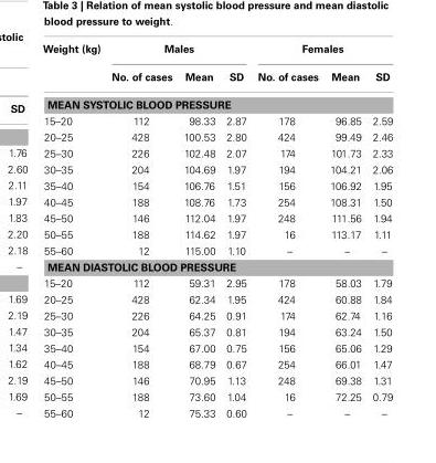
<table><thead><tr><td rowspan="2">Weight (kg)</td><td colspan="3">Males</td><td colspan="3">Females</td></tr><tr><td>No. of cases</td><td>Mean</td><td>SD</td><td>No. of cases</td><td>Mean</td><td>SD</td></tr></thead><tbody><tr><td colspan="7">MEAN SYSTOLIC BLOOD PRESSURE</td></tr><tr><td>15–20</td><td>112</td><td>98.33</td><td>2.87</td><td>178</td><td>96.85</td><td>2.59</td></tr><tr><td>20–25</td><td>428</td><td>100.53</td><td>2.80</td><td>424</td><td>99.49</td><td>2.46</td></tr><tr><td>25–30</td><td>226</td><td>102.48</td><td>2.07</td><td>174</td><td>101.73</td><td>2.33</td></tr><tr><td>30–35</td><td>204</td><td>104.69</td><td>1.97</td><td>194</td><td>104.21</td><td>2.06</td></tr><tr><td>35–40</td><td>154</td><td>106.76</td><td>1.51</td><td>156</td><td>106.92</td><td>1.95</td></tr><tr><td>40–45</td><td>188</td><td>108.76</td><td>1.73</td><td>254</td><td>108.31</td><td>1.50</td></tr><tr><td>45–50</td><td>146</td><td>112.04</td><td>1.97</td><td>248</td><td>111.56</td><td>1.94</td></tr><tr><td>50–55</td><td>188</td><td>114.62</td><td>1.97</td><td>16</td><td>113.17</td><td>1.11</td></tr><tr><td>55–60</td><td>12</td><td>115.00</td><td>1.10</td><td>–</td><td>–</td><td>–</td></tr><tr><td colspan="7">MEAN DIASTOLIC BLOOD PRESSURE</td></tr><tr><td>15–20</td><td>112</td><td>59.31</td><td>2.95</td><td>178</td><td>58.03</td><td>1.79</td></tr><tr><td>20–25</td><td>428</td><td>62.34</td><td>1.95</td><td>424</td><td>60.88</td><td>1.84</td></tr><tr><td>25–30</td><td>226</td><td>64.25</td><td>0.91</td><td>174</td><td>62.74</td><td>1.16</td></tr><tr><td>30–35</td><td>204</td><td>65.37</td><td>0.81</td><td>194</td><td>63.24</td><td>1.50</td></tr><tr><td>35–40</td><td>154</td><td>67.00</td><td>0.75</td><td>156</td><td>65.06</td><td>1.29</td></tr><tr><td>40–45</td><td>188</td><td>68.79</td><td>0.67</td><td>254</td><td>66.01</td><td>1.47</td></tr><tr><td>45–50</td><td>146</td><td>70.95</td><td>1.13</td><td>248</td><td>69.38</td><td>1.31</td></tr><tr><td>50–55</td><td>188</td><td>73.60</td><td>1.04</td><td>16</td><td>72.25</td><td>0.79</td></tr><tr><td>55–60</td><td>12</td><td>75.33</td><td>0.60</td><td>–</td><td>–</td><td>–</td></tr></tbody></table>